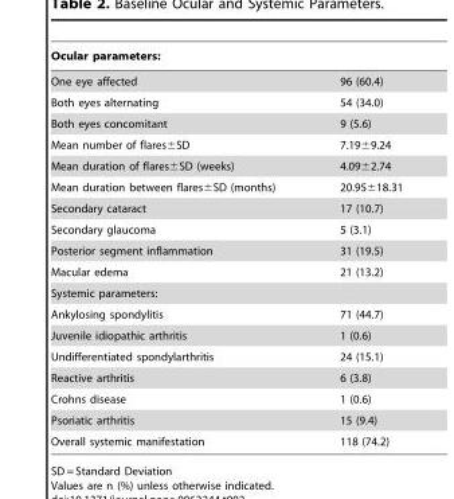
<table><thead><tr><td>Ocular parameters:</td><td></td></tr></thead><tbody><tr><td>One eye affected</td><td>96 (60.4)</td></tr><tr><td>Both eyes alternating</td><td>54 (34.0)</td></tr><tr><td>Both eyes concomitant</td><td>9 (5.6)</td></tr><tr><td>Mean number of flares±SD</td><td>7.19±9.24</td></tr><tr><td>Mean duration of flares±SD (weeks)</td><td>4.09±2.74</td></tr><tr><td>Mean duration between flares±SD (months)</td><td>20.95±18.31</td></tr><tr><td>Secondary cataract</td><td>17 (10.7)</td></tr><tr><td>Secondary glaucoma</td><td>5 (3.1)</td></tr><tr><td>Posterior segment inflammation</td><td>31 (19.5)</td></tr><tr><td>Macular edema</td><td>21 (13.2)</td></tr><tr><td colspan="2">Systemic parameters:</td></tr><tr><td>Ankylosing spondylitis</td><td>71 (44.7)</td></tr><tr><td>Juvenile idiopathic arthritis</td><td>1 (0.6)</td></tr><tr><td>Undifferentiated spondylarthritis</td><td>24 (15.1)</td></tr><tr><td>Reactive arthritis</td><td>6 (3.8)</td></tr><tr><td>Crohns disease</td><td>1 (0.6)</td></tr><tr><td>Psoriatic arthritis</td><td>15 (9.4)</td></tr><tr><td>Overall systemic manifestation</td><td>118 (74.2)</td></tr></tbody></table>